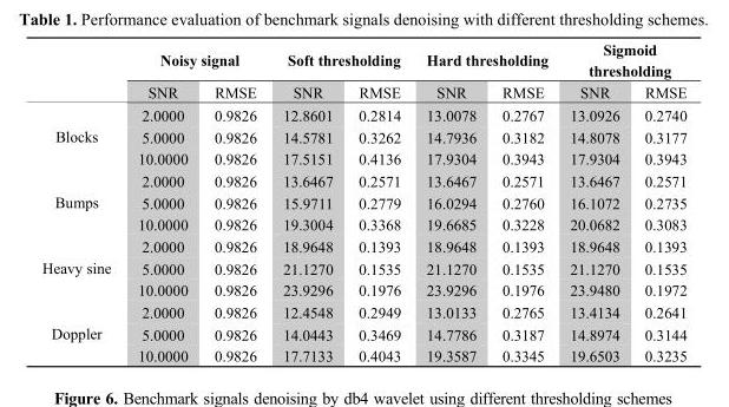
<table><thead><tr><td rowspan="2"></td><td colspan="2">Noisy signal</td><td colspan="2">Soft thresholding</td><td colspan="2">Hard thresholding</td><td colspan="2">Sigmoid thresholding</td></tr><tr><td>SNR</td><td>RMSE</td><td>SNR</td><td>RMSE</td><td>SNR</td><td>RMSE</td><td>SNR</td><td>RMSE</td></tr></thead><tbody><tr><td rowspan="3">Blocks</td><td>2.0000</td><td>0.9826</td><td>12.8601</td><td>0.2814</td><td>13.0078</td><td>0.2767</td><td>13.0926</td><td>0.2740</td></tr><tr><td>5.0000</td><td>0.9826</td><td>14.5781</td><td>0.3262</td><td>14.7936</td><td>0.3182</td><td>14.8078</td><td>0.3177</td></tr><tr><td>10.0000</td><td>0.9826</td><td>17.5151</td><td>0.4136</td><td>17.9304</td><td>0.3943</td><td>17.9304</td><td>0.3943</td></tr><tr><td rowspan="3">Bumps</td><td>2.0000</td><td>0.9826</td><td>13.6467</td><td>0.2571</td><td>13.6467</td><td>0.2571</td><td>13.6467</td><td>0.2571</td></tr><tr><td>5.0000</td><td>0.9826</td><td>15.9711</td><td>0.2779</td><td>16.0294</td><td>0.2760</td><td>16.1072</td><td>0.2735</td></tr><tr><td>10.0000</td><td>0.9826</td><td>19.3004</td><td>0.3368</td><td>19.6685</td><td>0.3228</td><td>20.0682</td><td>0.3083</td></tr><tr><td rowspan="3">Heavy sine</td><td>2.0000</td><td>0.9826</td><td>18.9648</td><td>0.1393</td><td>18.9648</td><td>0.1393</td><td>18.9648</td><td>0.1393</td></tr><tr><td>5.0000</td><td>0.9826</td><td>21.1270</td><td>0.1535</td><td>21.1270</td><td>0.1535</td><td>21.1270</td><td>0.1535</td></tr><tr><td>10.0000</td><td>0.9826</td><td>23.9296</td><td>0.1976</td><td>23.9296</td><td>0.1976</td><td>23.9480</td><td>0.1972</td></tr><tr><td rowspan="3">Doppler</td><td>2.0000</td><td>0.9826</td><td>12.4548</td><td>0.2949</td><td>13.0133</td><td>0.2765</td><td>13.4134</td><td>0.2641</td></tr><tr><td>5.0000</td><td>0.9826</td><td>14.0443</td><td>0.3469</td><td>14.7786</td><td>0.3187</td><td>14.8974</td><td>0.3144</td></tr><tr><td>10.0000</td><td>0.9826</td><td>17.7133</td><td>0.4043</td><td>19.3587</td><td>0.3345</td><td>19.6503</td><td>0.3235</td></tr></tbody></table>